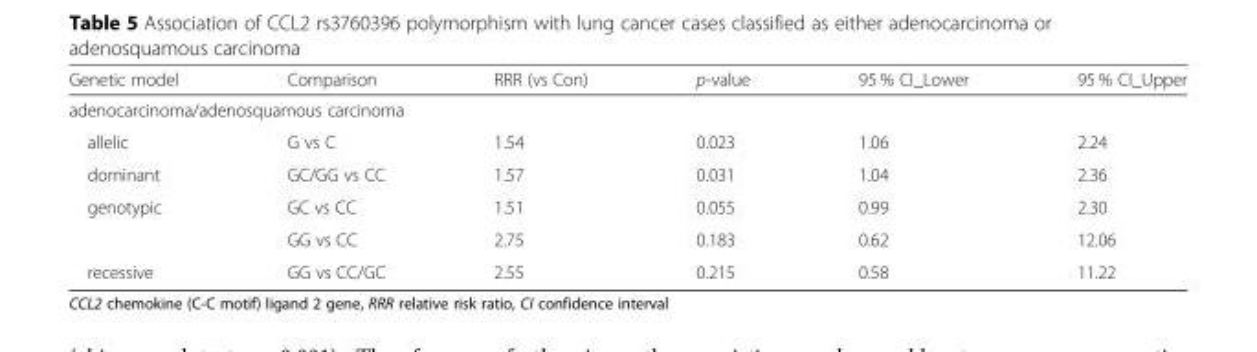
<table><thead><tr><td>Genetic model</td><td>Comparison</td><td>RRR (vs Con)</td><td>p-value</td><td>95 % CI_Lower</td><td>95 % CI_Upper</td></tr></thead><tbody><tr><td colspan="6">adenocarcinoma/adenosquamous carcinoma</td></tr><tr><td>allelic</td><td>G vs C</td><td>1.54</td><td>0.023</td><td>1.06</td><td>2.24</td></tr><tr><td>dominant</td><td>GC/GG vs CC</td><td>1.57</td><td>0.031</td><td>1.04</td><td>2.36</td></tr><tr><td rowspan="2">genotypic</td><td>GC vs CC</td><td>1.51</td><td>0.055</td><td>0.99</td><td>2.30</td></tr><tr><td>GG vs CC</td><td>2.75</td><td>0.183</td><td>0.62</td><td>12.06</td></tr><tr><td>recessive</td><td>GG vs CC/GC</td><td>2.55</td><td>0.215</td><td>0.58</td><td>11.22</td></tr></tbody></table>